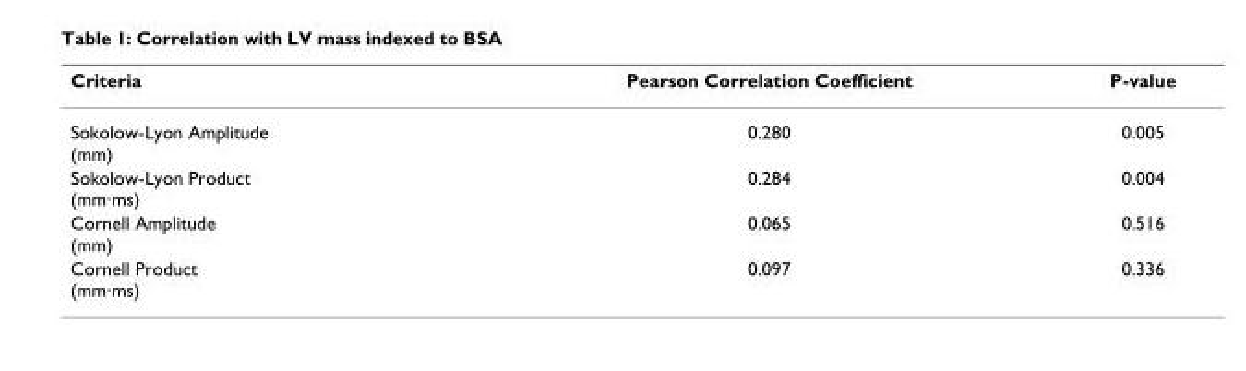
<table><thead><tr><td>Criteria</td><td>Pearson Correlation Coefficient</td><td>P-value</td></tr></thead><tbody><tr><td>Sokolow-Lyon Amplitude (mm)</td><td>0.280</td><td>0.005</td></tr><tr><td>Sokolow-Lyon Product (mm·ms)</td><td>0.284</td><td>0.004</td></tr><tr><td>Cornell Amplitude (mm)</td><td>0.065</td><td>0.516</td></tr><tr><td>Cornell Product (mm·ms)</td><td>0.097</td><td>0.336</td></tr></tbody></table>